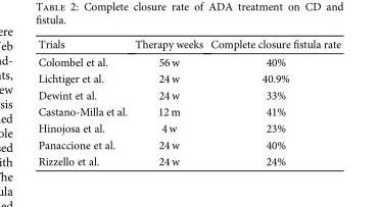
<table><thead><tr><td>Trials</td><td>Therapy weeks</td><td>Complete closure fistula rate</td></tr></thead><tbody><tr><td>Colombel et al.</td><td>56 w</td><td>40%</td></tr><tr><td>Lichtiger et al.</td><td>24 w</td><td>40.9%</td></tr><tr><td>Dewint et al.</td><td>24 w</td><td>33%</td></tr><tr><td>Castano-Milla et al.</td><td>12 m</td><td>41%</td></tr><tr><td>Hinojosa et al.</td><td>4 w</td><td>23%</td></tr><tr><td>Panaccione et al.</td><td>24 w</td><td>40%</td></tr><tr><td>Rizzello et al.</td><td>24 w</td><td>24%</td></tr></tbody></table>